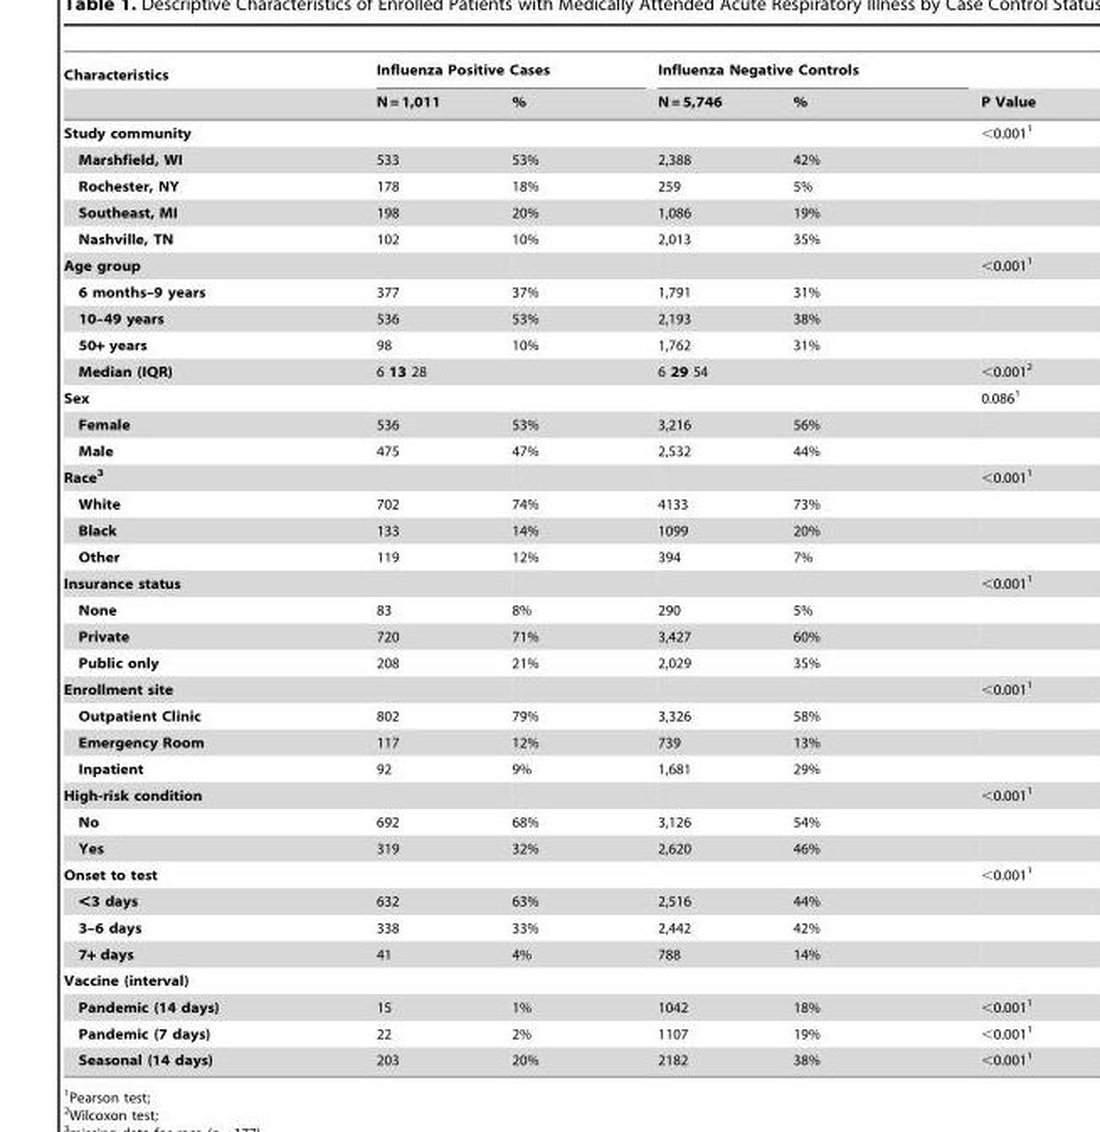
<table><thead><tr><td rowspan="2">Characteristics</td><td colspan="2">Influenza Positive Cases</td><td colspan="2">Influenza Negative Controls</td><td rowspan="2">P Value</td></tr><tr><td>N = 1,011</td><td>%</td><td>N = 5,746</td><td>%</td></tr></thead><tbody><tr><td>Study community</td><td></td><td></td><td></td><td></td><td>&lt;0.001<sup>1</sup></td></tr><tr><td>Marshfield, WI</td><td>533</td><td>53%</td><td>2,388</td><td>42%</td><td></td></tr><tr><td>Rochester, NY</td><td>178</td><td>18%</td><td>259</td><td>5%</td><td></td></tr><tr><td>Southeast, MI</td><td>198</td><td>20%</td><td>1,086</td><td>19%</td><td></td></tr><tr><td>Nashville, TN</td><td>102</td><td>10%</td><td>2,013</td><td>35%</td><td></td></tr><tr><td>Age group</td><td></td><td></td><td></td><td></td><td>&lt;0.001<sup>1</sup></td></tr><tr><td>6 months–9 years</td><td>377</td><td>37%</td><td>1,791</td><td>31%</td><td></td></tr><tr><td>10–49 years</td><td>536</td><td>53%</td><td>2,193</td><td>38%</td><td></td></tr><tr><td>50+ years</td><td>98</td><td>10%</td><td>1,762</td><td>31%</td><td></td></tr><tr><td>Median (IQR)</td><td colspan="2">6 13 28</td><td colspan="2">6 29 54</td><td>&lt;0.001<sup>2</sup></td></tr><tr><td>Sex</td><td></td><td></td><td></td><td></td><td>0.086<sup>1</sup></td></tr><tr><td>Female</td><td>536</td><td>53%</td><td>3,216</td><td>56%</td><td></td></tr><tr><td>Male</td><td>475</td><td>47%</td><td>2,532</td><td>44%</td><td></td></tr><tr><td>Race3</td><td></td><td></td><td></td><td></td><td>&lt;0.001<sup>1</sup></td></tr><tr><td>White</td><td>702</td><td>74%</td><td>4133</td><td>73%</td><td></td></tr><tr><td>Black</td><td>133</td><td>14%</td><td>1099</td><td>20%</td><td></td></tr><tr><td>Other</td><td>119</td><td>12%</td><td>394</td><td>7%</td><td></td></tr><tr><td>Insurance status</td><td></td><td></td><td></td><td></td><td>&lt;0.001<sup>1</sup></td></tr><tr><td>None</td><td>83</td><td>8%</td><td>290</td><td>5%</td><td></td></tr><tr><td>Private</td><td>720</td><td>71%</td><td>3,427</td><td>60%</td><td></td></tr><tr><td>Public only</td><td>208</td><td>21%</td><td>2,029</td><td>35%</td><td></td></tr><tr><td>Enrollment site</td><td></td><td></td><td></td><td></td><td>&lt;0.001<sup>1</sup></td></tr><tr><td>Outpatient Clinic</td><td>802</td><td>79%</td><td>3,326</td><td>58%</td><td></td></tr><tr><td>Emergency Room</td><td>117</td><td>12%</td><td>739</td><td>13%</td><td></td></tr><tr><td>Inpatient</td><td>92</td><td>9%</td><td>1,681</td><td>29%</td><td></td></tr><tr><td>High-risk condition</td><td></td><td></td><td></td><td></td><td>&lt;0.001<sup>1</sup></td></tr><tr><td>No</td><td>692</td><td>68%</td><td>3,126</td><td>54%</td><td></td></tr><tr><td>Yes</td><td>319</td><td>32%</td><td>2,620</td><td>46%</td><td></td></tr><tr><td>Onset to test</td><td></td><td></td><td></td><td></td><td>&lt;0.001<sup>1</sup></td></tr><tr><td>&lt;3 days</td><td>632</td><td>63%</td><td>2,516</td><td>44%</td><td></td></tr><tr><td>3–6 days</td><td>338</td><td>33%</td><td>2,442</td><td>42%</td><td></td></tr><tr><td>7+ days</td><td>41</td><td>4%</td><td>788</td><td>14%</td><td></td></tr><tr><td colspan="6">Vaccine (interval)</td></tr><tr><td>Pandemic (14 days)</td><td>15</td><td>1%</td><td>1042</td><td>18%</td><td>&lt;0.001<sup>1</sup></td></tr><tr><td>Pandemic (7 days)</td><td>22</td><td>2%</td><td>1107</td><td>19%</td><td>&lt;0.001<sup>1</sup></td></tr><tr><td>Seasonal (14 days)</td><td>203</td><td>20%</td><td>2182</td><td>38%</td><td>&lt;0.001<sup>1</sup></td></tr></tbody></table>